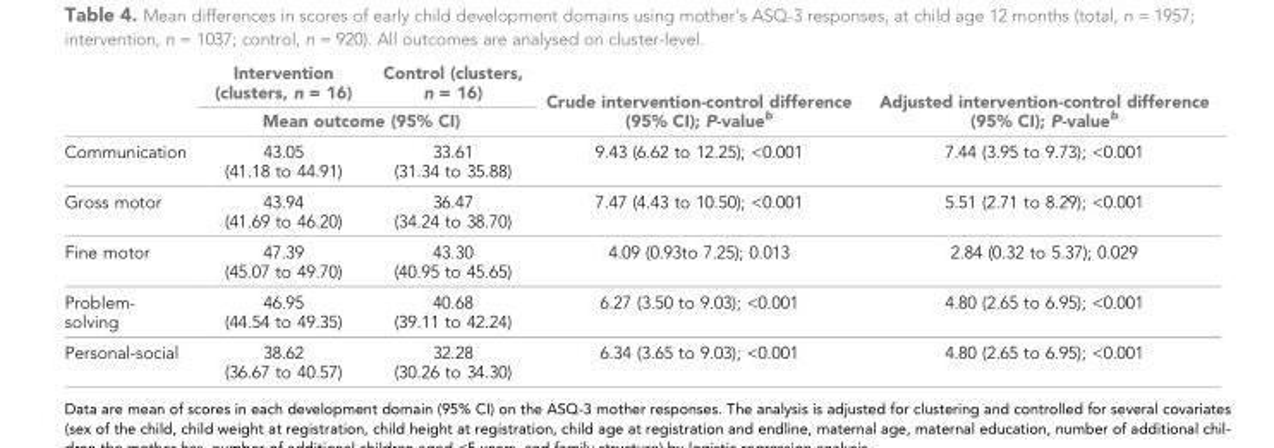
<table><thead><tr><td rowspan="2"></td><td>Intervention (clusters, n = 16)</td><td>Control (clusters, n = 16)</td><td rowspan="2">Crude intervention-control difference (95% CI); P-value<sup>b</sup></td><td rowspan="2">Adjusted intervention-control difference (95% CI); P-value<sup>b</sup></td></tr><tr><td colspan="2">Mean outcome (95% CI)</td></tr></thead><tbody><tr><td>Communication</td><td>43.05 (41.18 to 44.91)</td><td>33.61 (31.34 to 35.88)</td><td>9.43 (6.62 to 12.25); &lt;0.001</td><td>7.44 (3.95 to 9.73); &lt;0.001</td></tr><tr><td>Gross motor</td><td>43.94 (41.69 to 46.20)</td><td>36.47 (34.24 to 38.70)</td><td>7.47 (4.43 to 10.50); &lt;0.001</td><td>5.51 (2.71 to 8.29); &lt;0.001</td></tr><tr><td>Fine motor</td><td>47.39 (45.07 to 49.70)</td><td>43.30 (40.95 to 45.65)</td><td>4.09 (0.93to 7.25); 0.013</td><td>2.84 (0.32 to 5.37); 0.029</td></tr><tr><td>Problem- solving</td><td>46.95 (44.54 to 49.35)</td><td>40.68 (39.11 to 42.24)</td><td>6.27 (3.50 to 9.03); &lt;0.001</td><td>4.80 (2.65 to 6.95); &lt;0.001</td></tr><tr><td>Personal-social</td><td>38.62 (36.67 to 40.57)</td><td>32.28 (30.26 to 34.30)</td><td>6.34 (3.65 to 9.03); &lt;0.001</td><td>4.80 (2.65 to 6.95); &lt;0.001</td></tr></tbody></table>